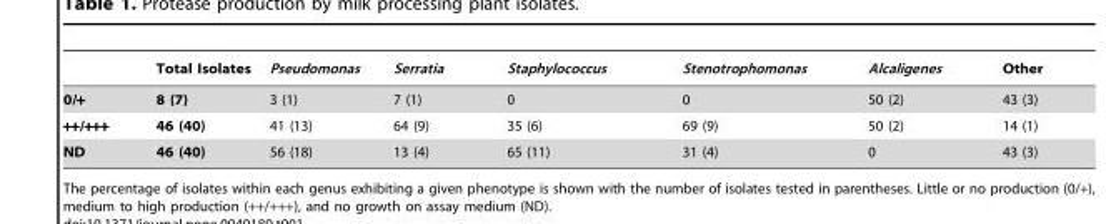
<table><thead><tr><td></td><td>Total Isolates</td><td>Pseudomonas</td><td>Serratia</td><td>Staphylococcus</td><td>Stenotrophomonas</td><td>Alcaligenes</td><td>Other</td></tr></thead><tbody><tr><td>0/+</td><td>8 (7)</td><td>3 (1)</td><td>7 (1)</td><td>0</td><td>0</td><td>50 (2)</td><td>43 (3)</td></tr><tr><td>++/+++</td><td>46 (40)</td><td>41 (13)</td><td>64 (9)</td><td>35 (6)</td><td>69 (9)</td><td>50 (2)</td><td>14 (1)</td></tr><tr><td>ND</td><td>46 (40)</td><td>56 (18)</td><td>13 (4)</td><td>65 (11)</td><td>31 (4)</td><td>0</td><td>43 (3)</td></tr></tbody></table>